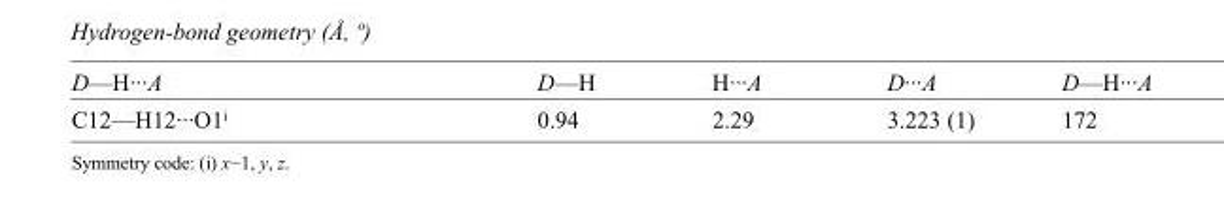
<table><tbody><tr><td>D—H···A</td><td>D—H</td><td>H···A</td><td>D···A</td><td>D—H···A</td></tr><tr><td>C12—H12···O1<sup>i</sup></td><td>0.94</td><td>2.29</td><td>3.223 (1)</td><td>172</td></tr></tbody></table>